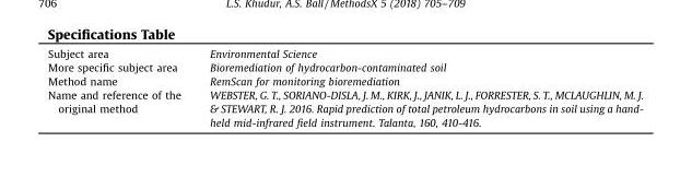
<table><tbody><tr><td>Subject area</td><td>Environmental Science</td></tr><tr><td>More specific subject area</td><td>Bioremediation of hydrocarbon-contaminated soil</td></tr><tr><td>Method name</td><td>RemScan for monitoring bioremediation</td></tr><tr><td>Name and reference of the original method</td><td>WEBSTER, G. T., SORIANO-DISLA, J. M., KIRK, J., JANIK, L. J., FORRESTER, S. T., MCLAUGHLIN, M. J. &amp; STEWART, R. J. 2016. Rapid prediction of total petroleum hydrocarbons in soil using a hand- held mid-infrared field instrument. Talanta, 160, 410-416.</td></tr></tbody></table>